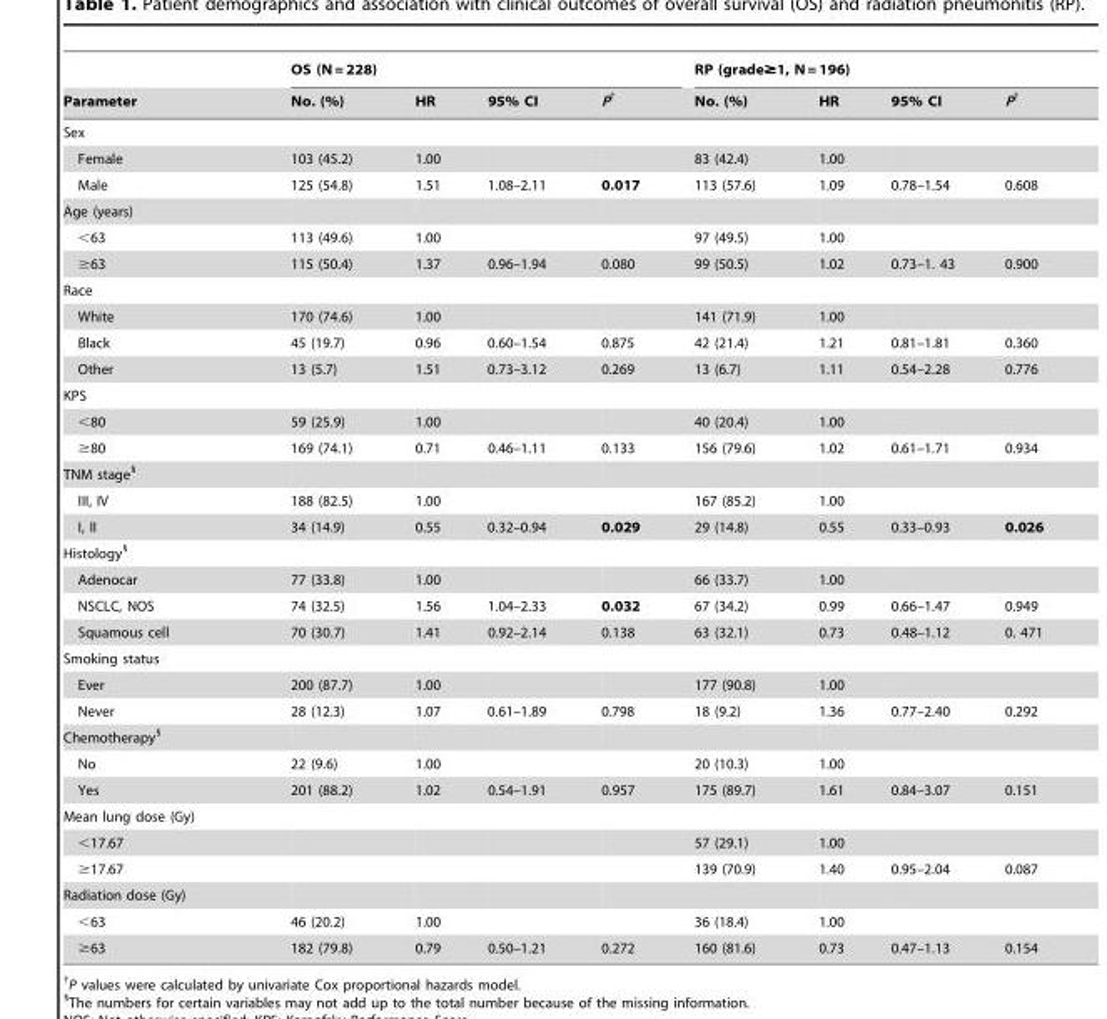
<table><thead><tr><td rowspan="2">Parameter</td><td colspan="4">OS (N = 228)</td><td colspan="4">RP (grade≥1, N = 196)</td></tr><tr><td>No. (%)</td><td>HR</td><td>95% CI</td><td>P†</td><td>No. (%)</td><td>HR</td><td>95% CI</td><td>P†</td></tr></thead><tbody><tr><td colspan="9">Sex</td></tr><tr><td>Female</td><td>103 (45.2)</td><td>1.00</td><td></td><td></td><td>83 (42.4)</td><td>1.00</td><td></td><td></td></tr><tr><td>Male</td><td>125 (54.8)</td><td>1.51</td><td>1.08–2.11</td><td>0.017</td><td>113 (57.6)</td><td>1.09</td><td>0.78–1.54</td><td>0.608</td></tr><tr><td colspan="9">Age (years)</td></tr><tr><td>&lt;63</td><td>113 (49.6)</td><td>1.00</td><td></td><td></td><td>97 (49.5)</td><td>1.00</td><td></td><td></td></tr><tr><td>≥63</td><td>115 (50.4)</td><td>1.37</td><td>0.96–1.94</td><td>0.080</td><td>99 (50.5)</td><td>1.02</td><td>0.73–1. 43</td><td>0.900</td></tr><tr><td colspan="9">Race</td></tr><tr><td>White</td><td>170 (74.6)</td><td>1.00</td><td></td><td></td><td>141 (71.9)</td><td>1.00</td><td></td><td></td></tr><tr><td>Black</td><td>45 (19.7)</td><td>0.96</td><td>0.60–1.54</td><td>0.875</td><td>42 (21.4)</td><td>1.21</td><td>0.81–1.81</td><td>0.360</td></tr><tr><td>Other</td><td>13 (5.7)</td><td>1.51</td><td>0.73–3.12</td><td>0.269</td><td>13 (6.7)</td><td>1.11</td><td>0.54–2.28</td><td>0.776</td></tr><tr><td colspan="9">KPS</td></tr><tr><td>&lt;80</td><td>59 (25.9)</td><td>1.00</td><td></td><td></td><td>40 (20.4)</td><td>1.00</td><td></td><td></td></tr><tr><td>≥80</td><td>169 (74.1)</td><td>0.71</td><td>0.46–1.11</td><td>0.133</td><td>156 (79.6)</td><td>1.02</td><td>0.61–1.71</td><td>0.934</td></tr><tr><td colspan="9">TNM stage§</td></tr><tr><td>III, IV</td><td>188 (82.5)</td><td>1.00</td><td></td><td></td><td>167 (85.2)</td><td>1.00</td><td></td><td></td></tr><tr><td>I, II</td><td>34 (14.9)</td><td>0.55</td><td>0.32–0.94</td><td>0.029</td><td>29 (14.8)</td><td>0.55</td><td>0.33–0.93</td><td>0.026</td></tr><tr><td colspan="9">Histology§</td></tr><tr><td>Adenocar</td><td>77 (33.8)</td><td>1.00</td><td></td><td></td><td>66 (33.7)</td><td>1.00</td><td></td><td></td></tr><tr><td>NSCLC, NOS</td><td>74 (32.5)</td><td>1.56</td><td>1.04–2.33</td><td>0.032</td><td>67 (34.2)</td><td>0.99</td><td>0.66–1.47</td><td>0.949</td></tr><tr><td>Squamous cell</td><td>70 (30.7)</td><td>1.41</td><td>0.92–2.14</td><td>0.138</td><td>63 (32.1)</td><td>0.73</td><td>0.48–1.12</td><td>0. 471</td></tr><tr><td colspan="9">Smoking status</td></tr><tr><td>Ever</td><td>200 (87.7)</td><td>1.00</td><td></td><td></td><td>177 (90.8)</td><td>1.00</td><td></td><td></td></tr><tr><td>Never</td><td>28 (12.3)</td><td>1.07</td><td>0.61–1.89</td><td>0.798</td><td>18 (9.2)</td><td>1.36</td><td>0.77–2.40</td><td>0.292</td></tr><tr><td colspan="9">Chemotherapy§</td></tr><tr><td>No</td><td>22 (9.6)</td><td>1.00</td><td></td><td></td><td>20 (10.3)</td><td>1.00</td><td></td><td></td></tr><tr><td>Yes</td><td>201 (88.2)</td><td>1.02</td><td>0.54–1.91</td><td>0.957</td><td>175 (89.7)</td><td>1.61</td><td>0.84–3.07</td><td>0.151</td></tr><tr><td colspan="9">Mean lung dose (Gy)</td></tr><tr><td>&lt;17.67</td><td></td><td></td><td></td><td></td><td>57 (29.1)</td><td>1.00</td><td></td><td></td></tr><tr><td>≥17.67</td><td></td><td></td><td></td><td></td><td>139 (70.9)</td><td>1.40</td><td>0.95–2.04</td><td>0.087</td></tr><tr><td colspan="9">Radiation dose (Gy)</td></tr><tr><td>&lt;63</td><td>46 (20.2)</td><td>1.00</td><td></td><td></td><td>36 (18.4)</td><td>1.00</td><td></td><td></td></tr><tr><td>≥63</td><td>182 (79.8)</td><td>0.79</td><td>0.50–1.21</td><td>0.272</td><td>160 (81.6)</td><td>0.73</td><td>0.47–1.13</td><td>0.154</td></tr></tbody></table>